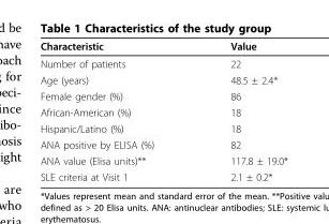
<table><thead><tr><td>Characteristic</td><td>Value</td></tr></thead><tbody><tr><td>Number of patients</td><td>22</td></tr><tr><td>Age (years)</td><td>48.5 ± 2.4*</td></tr><tr><td>Female gender (%)</td><td>86</td></tr><tr><td>African-American (%)</td><td>18</td></tr><tr><td>Hispanic/Latino (%)</td><td>18</td></tr><tr><td>ANA positive by ELISA (%)</td><td>82</td></tr><tr><td>ANA value (Elisa units)**</td><td>117.8 ± 19.0*</td></tr><tr><td>SLE criteria at Visit 1</td><td>2.1 ± 0.2*</td></tr></tbody></table>